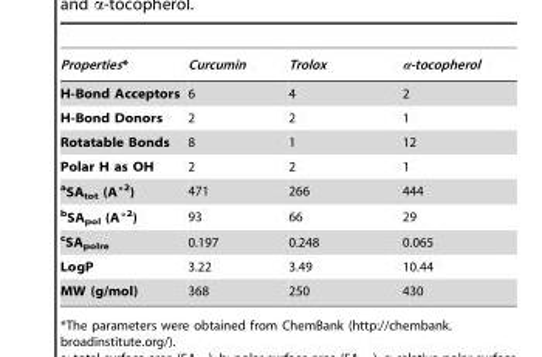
<table><thead><tr><td>Properties*</td><td>Curcumin</td><td>Trolox</td><td>α-tocopherol</td></tr></thead><tbody><tr><td>H-Bond Acceptors</td><td>6</td><td>4</td><td>2</td></tr><tr><td>H-Bond Donors</td><td>2</td><td>2</td><td>1</td></tr><tr><td>Rotatable Bonds</td><td>8</td><td>1</td><td>12</td></tr><tr><td>Polar H as OH</td><td>2</td><td>2</td><td>1</td></tr><tr><td><sup>a</sup>SA<sub>tot</sub> (A°<sup>2</sup>)</td><td>471</td><td>266</td><td>444</td></tr><tr><td><sup>b</sup>SA<sub>pol</sub> (A°<sup>2</sup>)</td><td>93</td><td>66</td><td>29</td></tr><tr><td><sup>c</sup>SA<sub>polre</sub></td><td>0.197</td><td>0.248</td><td>0.065</td></tr><tr><td>LogP</td><td>3.22</td><td>3.49</td><td>10.44</td></tr><tr><td>MW (g/mol)</td><td>368</td><td>250</td><td>430</td></tr></tbody></table>